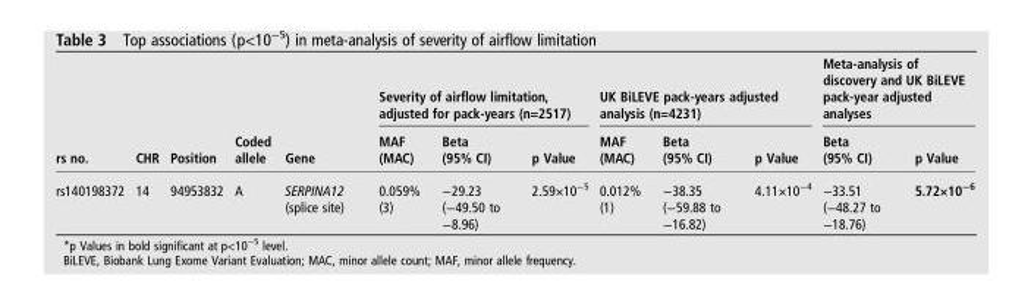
<table><thead><tr><td rowspan="2">rs no.</td><td rowspan="2">CHR</td><td rowspan="2">Position</td><td rowspan="2">Coded allele</td><td rowspan="2">Gene</td><td colspan="3">Severity of airflow limitation, adjusted for pack-years (n=2517)</td><td colspan="3">UK BiLEVE pack-years adjusted analysis (n=4231)</td><td colspan="2">Meta-analysis of discovery and UK BiLEVE pack-year adjusted analyses</td></tr><tr><td>MAF (MAC)</td><td>Beta (95% CI)</td><td>p Value</td><td>MAF (MAC)</td><td>Beta (95% CI)</td><td>p Value</td><td>Beta (95% CI)</td><td>p Value</td></tr></thead><tbody><tr><td>rs140198372</td><td>14</td><td>94953832</td><td>A</td><td>SERPINA12 (splice site)</td><td>0.059% (3)</td><td>−29.23 (−49.50 to −8.96)</td><td>2.59×10<sup>−5</sup></td><td>0.012% (1)</td><td>−38.35 (−59.88 to −16.82)</td><td>4.11×10<sup>−4</sup></td><td>−33.51 (−48.27 to −18.76)</td><td>5.72×10<sup>−6</sup></td></tr></tbody></table>